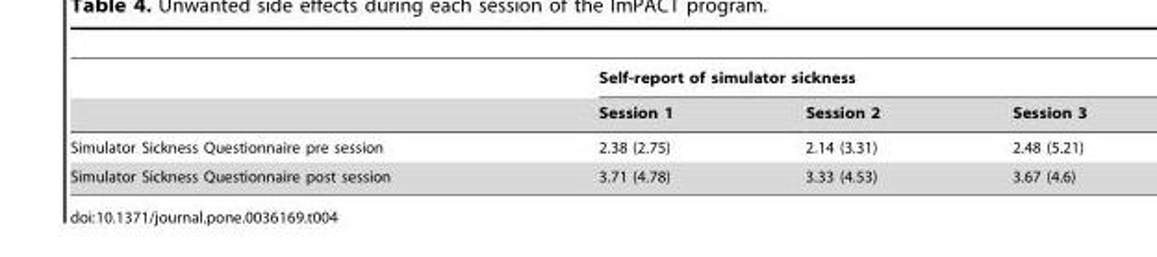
<table><thead><tr><td rowspan="2"></td><td colspan="3">Self-report of simulator sickness</td></tr><tr><td>Session 1</td><td>Session 2</td><td>Session 3</td></tr></thead><tbody><tr><td>Simulator Sickness Questionnaire pre session</td><td>2.38 (2.75)</td><td>2.14 (3.31)</td><td>2.48 (5.21)</td></tr><tr><td>Simulator Sickness Questionnaire post session</td><td>3.71 (4.78)</td><td>3.33 (4.53)</td><td>3.67 (4.6)</td></tr></tbody></table>